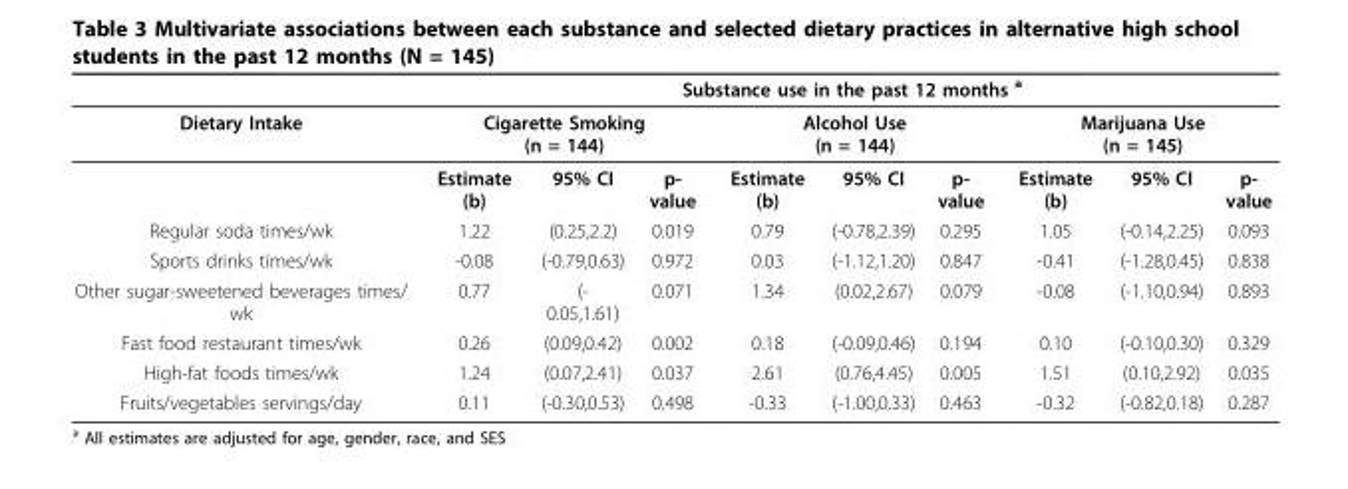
<table><thead><tr><td rowspan="3">Dietary Intake</td><td colspan="9">Substance use in the past 12 months <sup>a</sup></td></tr><tr><td colspan="3">Cigarette Smoking (n = 144)</td><td colspan="3">Alcohol Use (n = 144)</td><td colspan="3">Marijuana Use (n = 145)</td></tr><tr><td>Estimate (b)</td><td>95% CI</td><td>p- value</td><td>Estimate (b)</td><td>95% CI</td><td>p- value</td><td>Estimate (b)</td><td>95% CI</td><td>p- value</td></tr></thead><tbody><tr><td>Regular soda times/wk</td><td>1.22</td><td>(0.25,2.2)</td><td>0.019</td><td>0.79</td><td>(-0.78,2.39)</td><td>0.295</td><td>1.05</td><td>(-0.14,2.25)</td><td>0.093</td></tr><tr><td>Sports drinks times/wk</td><td>-0.08</td><td>(-0.79,0.63)</td><td>0.972</td><td>0.03</td><td>(-1.12,1.20)</td><td>0.847</td><td>-0.41</td><td>(-1.28,0.45)</td><td>0.838</td></tr><tr><td>Other sugar-sweetened beverages times/ wk</td><td>0.77</td><td>(- 0.05,1.61)</td><td>0.071</td><td>1.34</td><td>(0.02,2.67)</td><td>0.079</td><td>-0.08</td><td>(-1.10,0.94)</td><td>0.893</td></tr><tr><td>Fast food restaurant times/wk</td><td>0.26</td><td>(0.09,0.42)</td><td>0.002</td><td>0.18</td><td>(-0.09,0.46)</td><td>0.194</td><td>0.10</td><td>(-0.10,0.30)</td><td>0.329</td></tr><tr><td>High-fat foods times/wk</td><td>1.24</td><td>(0.07,2.41)</td><td>0.037</td><td>2.61</td><td>(0.76,4.45)</td><td>0.005</td><td>1.51</td><td>(0.10,2.92)</td><td>0.035</td></tr><tr><td>Fruits/vegetables servings/day</td><td>0.11</td><td>(-0.30,0.53)</td><td>0.498</td><td>-0.33</td><td>(-1.00,0.33)</td><td>0.463</td><td>-0.32</td><td>(-0.82,0.18)</td><td>0.287</td></tr></tbody></table>